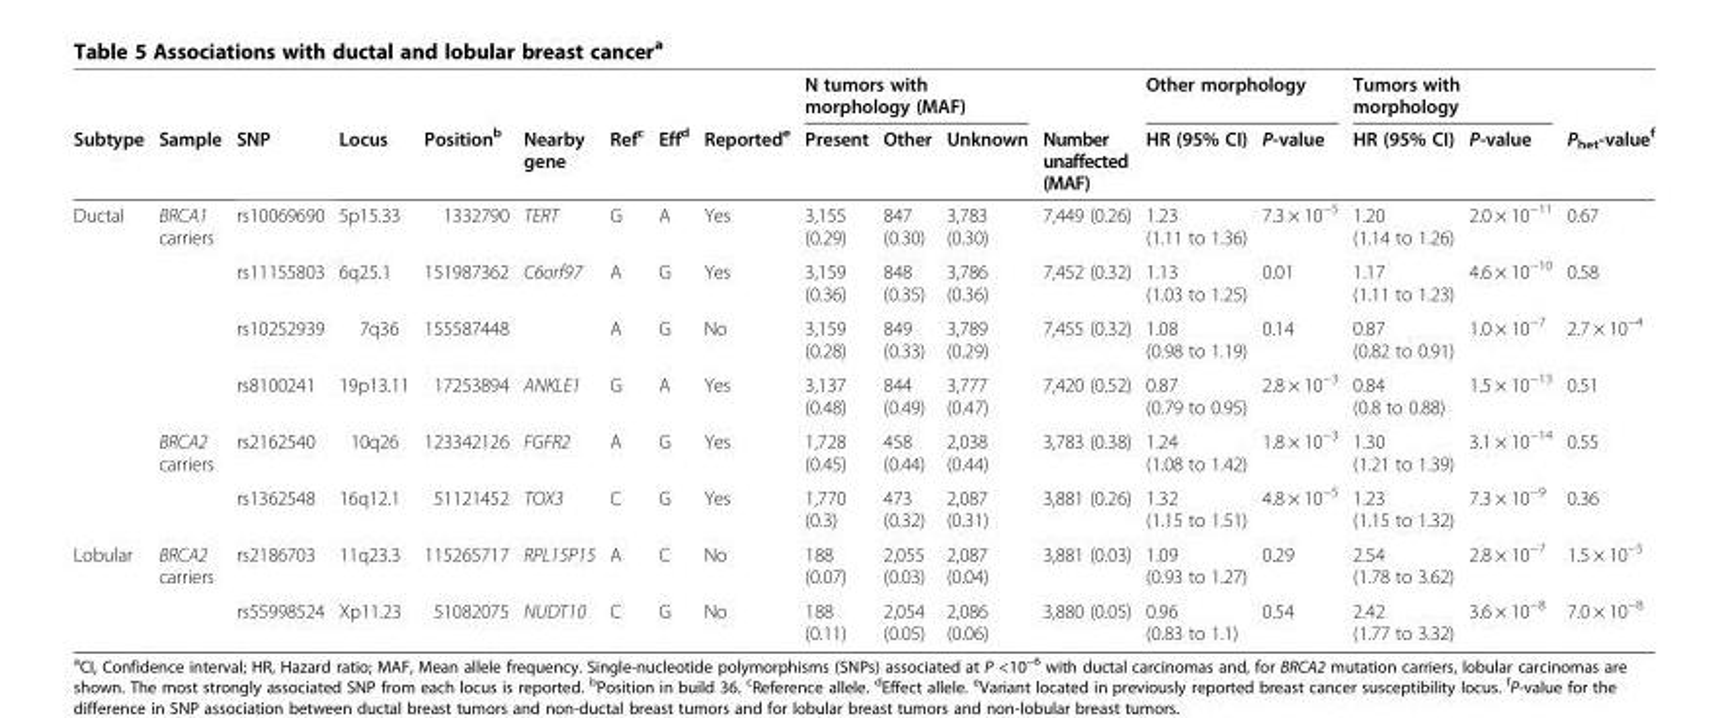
<table><thead><tr><td rowspan="2">Subtype</td><td rowspan="2">Sample</td><td rowspan="2">SNP</td><td rowspan="2">Locus</td><td rowspan="2">Position<sup>b</sup></td><td rowspan="2">Nearby gene</td><td rowspan="2">Ref<sup>c</sup></td><td rowspan="2">Eff<sup>d</sup></td><td rowspan="2">Reported<sup>e</sup></td><td colspan="3">N tumors with morphology (MAF)</td><td rowspan="2">Number unaffected (MAF)</td><td colspan="2">Other morphology</td><td colspan="2">Tumors with morphology</td><td rowspan="2">P<sub>het</sub>-value<sup>f</sup></td></tr><tr><td>Present</td><td>Other</td><td>Unknown</td><td>HR (95% CI)</td><td>P-value</td><td>HR (95% CI)</td><td>P-value</td></tr></thead><tbody><tr><td rowspan="6">Ductal</td><td>BRCA1 carriers</td><td>rs10069690</td><td>5p15.33</td><td>1332790</td><td>TERT</td><td>G</td><td>A</td><td>Yes</td><td>3,155 (0.29)</td><td>847 (0.30)</td><td>3,783 (0.30)</td><td>7,449 (0.26)</td><td>1.23 (1.11 to 1.36)</td><td>7.3 × 10<sup>−5</sup></td><td>1.20 (1.14 to 1.26)</td><td>2.0 × 10<sup>−11</sup></td><td>0.67</td></tr><tr><td></td><td>rs11155803</td><td>6q25.1</td><td>151987362</td><td>C6orf97</td><td>A</td><td>G</td><td>Yes</td><td>3,159 (0.36)</td><td>848 (0.35)</td><td>3,786 (0.36)</td><td>7,452 (0.32)</td><td>1.13 (1.03 to 1.25)</td><td>0.01</td><td>1.17 (1.11 to 1.23)</td><td>4.6 × 10<sup>−10</sup></td><td>0.58</td></tr><tr><td></td><td>rs10252939</td><td>7q36</td><td>155587448</td><td></td><td>A</td><td>G</td><td>No</td><td>3,159 (0.28)</td><td>849 (0.33)</td><td>3,789 (0.29)</td><td>7,455 (0.32)</td><td>1.08 (0.98 to 1.19)</td><td>0.14</td><td>0.87 (0.82 to 0.91)</td><td>1.0 × 10<sup>−7</sup></td><td>2.7 × 10<sup>−4</sup></td></tr><tr><td></td><td>rs8100241</td><td>19p13.11</td><td>17253894</td><td>ANKLE1</td><td>G</td><td>A</td><td>Yes</td><td>3,137 (0.48)</td><td>844 (0.49)</td><td>3,777 (0.47)</td><td>7,420 (0.52)</td><td>0.87 (0.79 to 0.95)</td><td>2.8 × 10<sup>−3</sup></td><td>0.84 (0.8 to 0.88)</td><td>1.5 × 10<sup>−13</sup></td><td>0.51</td></tr><tr><td>BRCA2 carriers</td><td>rs2162540</td><td>10q26</td><td>123342126</td><td>FGFR2</td><td>A</td><td>G</td><td>Yes</td><td>1,728 (0.45)</td><td>458 (0.44)</td><td>2,038 (0.44)</td><td>3,783 (0.38)</td><td>1.24 (1.08 to 1.42)</td><td>1.8 × 10<sup>−3</sup></td><td>1.30 (1.21 to 1.39)</td><td>3.1 × 10<sup>−14</sup></td><td>0.55</td></tr><tr><td></td><td>rs1362548</td><td>16q12.1</td><td>51121452</td><td>TOX3</td><td>C</td><td>G</td><td>Yes</td><td>1,770 (0.3)</td><td>473 (0.32)</td><td>2,087 (0.31)</td><td>3,881 (0.26)</td><td>1.32 (1.15 to 1.51)</td><td>4.8 × 10<sup>−5</sup></td><td>1.23 (1.15 to 1.32)</td><td>7.3 × 10<sup>−9</sup></td><td>0.36</td></tr><tr><td rowspan="2">Lobular</td><td>BRCA2 carriers</td><td>rs2186703</td><td>11q23.3</td><td>115265717</td><td>RPL15P15</td><td>A</td><td>C</td><td>No</td><td>188 (0.07)</td><td>2,055 (0.03)</td><td>2,087 (0.04)</td><td>3,881 (0.03)</td><td>1.09 (0.93 to 1.27)</td><td>0.29</td><td>2.54 (1.78 to 3.62)</td><td>2.8 × 10<sup>−7</sup></td><td>1.5 × 10<sup>−5</sup></td></tr><tr><td></td><td>rs55998524</td><td>Xp11.23</td><td>51082075</td><td>NUDT10</td><td>C</td><td>G</td><td>No</td><td>188 (0.11)</td><td>2,054 (0.05)</td><td>2,086 (0.06)</td><td>3,880 (0.05)</td><td>0.96 (0.83 to 1.1)</td><td>0.54</td><td>2.42 (1.77 to 3.32)</td><td>3.6 × 10<sup>−8</sup></td><td>7.0 × 10<sup>−8</sup></td></tr></tbody></table>